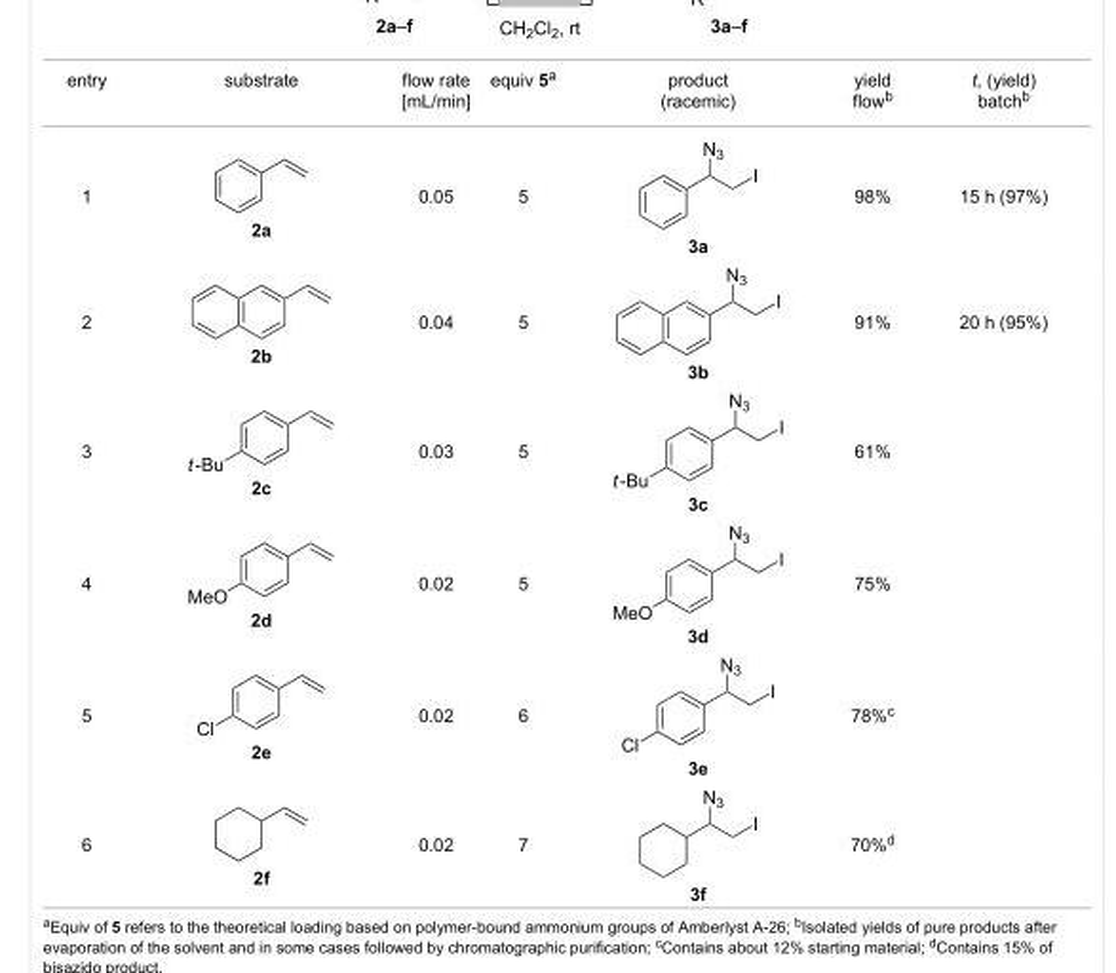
<table><tbody><tr><td>entry</td><td>substrate</td><td>flow rate [mL/min]</td><td>equiv 5<sup>a</sup></td><td>product (racemic)</td><td>yield flow<sup>b</sup></td><td>t, (yield) batch<sup>b</sup></td></tr><tr><td>1</td><td>2a</td><td>0.05</td><td>5</td><td>3a</td><td>98%</td><td>15 h (97%)</td></tr><tr><td>2</td><td>2b</td><td>0.04</td><td>5</td><td>3b</td><td>91%</td><td>20 h (95%)</td></tr><tr><td>3</td><td>2c</td><td>0.03</td><td>5</td><td>3c</td><td>61%</td><td></td></tr><tr><td>4</td><td>2d</td><td>0.02</td><td>5</td><td>3d</td><td>75%</td><td></td></tr><tr><td>5</td><td>2e</td><td>0.02</td><td>6</td><td>3e</td><td>78%<sup>c</sup></td><td></td></tr><tr><td>6</td><td>2f</td><td>0.02</td><td>7</td><td>3f</td><td>70%<sup>d</sup></td><td></td></tr></tbody></table>